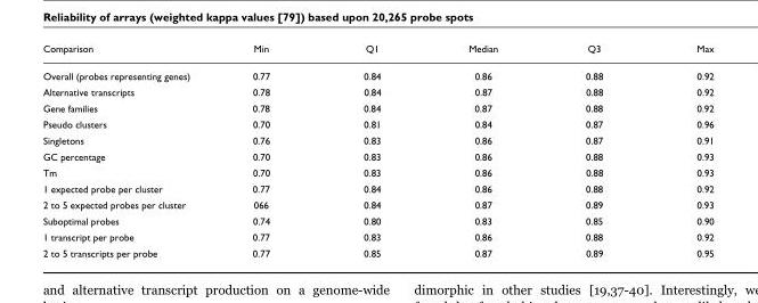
<table><thead><tr><td>Comparison</td><td>Min</td><td>Q1</td><td>Median</td><td>Q3</td><td>Max</td></tr></thead><tbody><tr><td>Overall (probes representing genes)</td><td>0.77</td><td>0.84</td><td>0.86</td><td>0.88</td><td>0.92</td></tr><tr><td>Alternative transcripts</td><td>0.78</td><td>0.84</td><td>0.87</td><td>0.88</td><td>0.92</td></tr><tr><td>Gene families</td><td>0.78</td><td>0.84</td><td>0.87</td><td>0.88</td><td>0.92</td></tr><tr><td>Pseudo clusters</td><td>0.70</td><td>0.81</td><td>0.84</td><td>0.87</td><td>0.96</td></tr><tr><td>Singletons</td><td>0.76</td><td>0.83</td><td>0.86</td><td>0.87</td><td>0.91</td></tr><tr><td>GC percentage</td><td>0.70</td><td>0.83</td><td>0.86</td><td>0.88</td><td>0.93</td></tr><tr><td>Tm</td><td>0.70</td><td>0.83</td><td>0.86</td><td>0.88</td><td>0.93</td></tr><tr><td>1 expected probe per cluster</td><td>0.77</td><td>0.84</td><td>0.86</td><td>0.88</td><td>0.92</td></tr><tr><td>2 to 5 expected probes per cluster</td><td>066</td><td>0.84</td><td>0.87</td><td>0.89</td><td>0.93</td></tr><tr><td>Suboptimal probes</td><td>0.74</td><td>0.80</td><td>0.83</td><td>0.85</td><td>0.90</td></tr><tr><td>1 transcript per probe</td><td>0.77</td><td>0.83</td><td>0.86</td><td>0.88</td><td>0.92</td></tr><tr><td>2 to 5 transcripts per probe</td><td>0.77</td><td>0.85</td><td>0.87</td><td>0.89</td><td>0.95</td></tr></tbody></table>